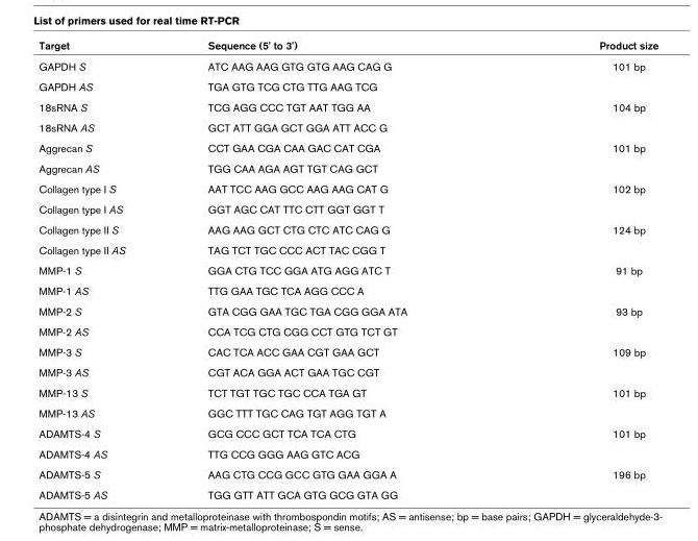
<table><thead><tr><td>Target</td><td>Sequence (5&#x27; to 3&#x27;)</td><td>Product size</td></tr></thead><tbody><tr><td>GAPDH S</td><td>ATC AAG AAG GTG GTG AAG CAG G</td><td>101 bp</td></tr><tr><td>GAPDH AS</td><td>TGA GTG TCG CTG TTG AAG TCG</td><td></td></tr><tr><td>18sRNA S</td><td>TCG AGG CCC TGT AAT TGG AA</td><td>104 bp</td></tr><tr><td>18sRNA AS</td><td>GCT ATT GGA GCT GGA ATT ACC G</td><td></td></tr><tr><td>Aggrecan S</td><td>CCT GAA CGA CAA GAC CAT CGA</td><td>101 bp</td></tr><tr><td>Aggrecan AS</td><td>TGG CAA AGA AGT TGT CAG GCT</td><td></td></tr><tr><td>Collagen type I S</td><td>AAT TCC AAG GCC AAG AAG CAT G</td><td>102 bp</td></tr><tr><td>Collagen type I AS</td><td>GGT AGC CAT TTC CTT GGT GGT T</td><td></td></tr><tr><td>Collagen type II S</td><td>AAG AAG GCT CTG CTC ATC CAG G</td><td>124 bp</td></tr><tr><td>Collagen type II AS</td><td>TAG TCT TGC CCC ACT TAC CGG T</td><td></td></tr><tr><td>MMP-1 S</td><td>GGA CTG TCC GGA ATG AGG ATC T</td><td>91 bp</td></tr><tr><td>MMP-1 AS</td><td>TTG GAA TGC TCA AGG CCC A</td><td></td></tr><tr><td>MMP-2 S</td><td>GTA CGG GAA TGC TGA CGG GGA ATA</td><td>93 bp</td></tr><tr><td>MMP-2 AS</td><td>CCA TCG CTG CGG CCT GTG TCT GT</td><td></td></tr><tr><td>MMP-3 S</td><td>CAC TCA ACC GAA CGT GAA GCT</td><td>109 bp</td></tr><tr><td>MMP-3 AS</td><td>CGT ACA GGA ACT GAA TGC CGT</td><td></td></tr><tr><td>MMP-13 S</td><td>TCT TGT TGC TGC CCA TGA GT</td><td>101 bp</td></tr><tr><td>MMP-13 AS</td><td>GGC TTT TGC CAG TGT AGG TGT A</td><td></td></tr><tr><td>ADAMTS-4 S</td><td>GCG CCC GCT TCA TCA CTG</td><td>101 bp</td></tr><tr><td>ADAMTS-4 AS</td><td>TTG CCG GGG AAG GTC ACG</td><td></td></tr><tr><td>ADAMTS-5 S</td><td>AAG CTG CCG GCC GTG GAA GGA A</td><td>196 bp</td></tr><tr><td>ADAMTS-5 AS</td><td>TGG GTT ATT GCA GTG GCG GTA GG</td><td></td></tr></tbody></table>